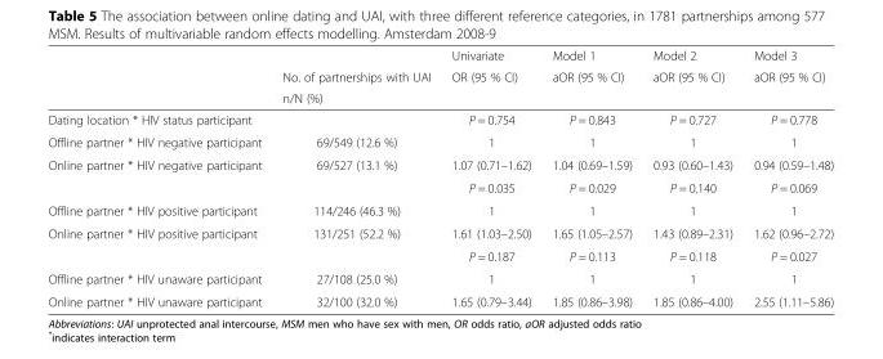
<table><thead><tr><td rowspan="3"></td><td rowspan="3">No. of partnerships with UAI n/N (%)</td><td rowspan="3">Univariate OR (95 % CI)</td><td rowspan="3">Model 1 aOR (95 % CI)</td><td rowspan="3">Model 2 aOR (95 % CI)</td><td rowspan="3">Model 3 aOR (95 % CI)</td></tr><tr></tr><tr></tr></thead><tbody><tr><td>Dating location * HIV status participant</td><td></td><td>P = 0.754</td><td>P = 0.843</td><td>P = 0.727</td><td>P = 0.778</td></tr><tr><td>Offline partner * HIV negative participant</td><td>69/549 (12.6 %)</td><td>1</td><td>1</td><td>1</td><td>1</td></tr><tr><td rowspan="2">Online partner * HIV negative participant</td><td>69/527 (13.1 %)</td><td>1.07 (0.71–1.62)</td><td>1.04 (0.69–1.59)</td><td>0.93 (0.60–1.43)</td><td>0.94 (0.59–1.48)</td></tr><tr><td></td><td>P = 0.035</td><td>P = 0.029</td><td>P = 0.140</td><td>P = 0.069</td></tr><tr><td>Offline partner * HIV positive participant</td><td>114/246 (46.3 %)</td><td>1</td><td>1</td><td>1</td><td>1</td></tr><tr><td rowspan="2">Online partner * HIV positive participant</td><td>131/251 (52.2 %)</td><td>1.61 (1.03–2.50)</td><td>1.65 (1.05–2.57)</td><td>1.43 (0.89–2.31)</td><td>1.62 (0.96–2.72)</td></tr><tr><td></td><td>P = 0.187</td><td>P = 0.113</td><td>P = 0.118</td><td>P = 0.027</td></tr><tr><td>Offline partner * HIV unaware participant</td><td>27/108 (25.0 %)</td><td>1</td><td>1</td><td>1</td><td>1</td></tr><tr><td>Online partner * HIV unaware participant</td><td>32/100 (32.0 %)</td><td>1.65 (0.79–3.44)</td><td>1.85 (0.86–3.98)</td><td>1.85 (0.86–4.00)</td><td>2.55 (1.11–5.86)</td></tr></tbody></table>